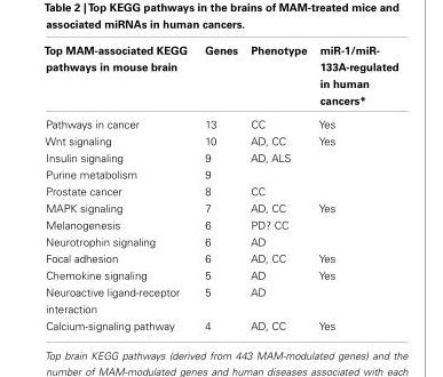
<table><thead><tr><td>Top MAM-associated KEGG pathways in mouse brain</td><td>Genes</td><td>Phenotype</td><td>miR-1/miR- 133A-regulated in human cancers*</td></tr></thead><tbody><tr><td>Pathways in cancer</td><td>13</td><td>CC</td><td>Yes</td></tr><tr><td>Wnt signaling</td><td>10</td><td>AD, CC</td><td>Yes</td></tr><tr><td>Insulin signaling</td><td>9</td><td>AD, ALS</td><td></td></tr><tr><td>Purine metabolism</td><td>9</td><td></td><td></td></tr><tr><td>Prostate cancer</td><td>8</td><td>CC</td><td></td></tr><tr><td>MAPK signaling</td><td>7</td><td>AD, CC</td><td>Yes</td></tr><tr><td>Melanogenesis</td><td>6</td><td>PD? CC</td><td></td></tr><tr><td>Neurotrophin signaling</td><td>6</td><td>AD</td><td></td></tr><tr><td>Focal adhesion</td><td>6</td><td>AD, CC</td><td>Yes</td></tr><tr><td>Chemokine signaling</td><td>5</td><td>AD</td><td>Yes</td></tr><tr><td>Neuroactive ligand-receptor interaction</td><td>5</td><td>AD</td><td></td></tr><tr><td>Calcium-signaling pathway</td><td>4</td><td>AD, CC</td><td>Yes</td></tr></tbody></table>